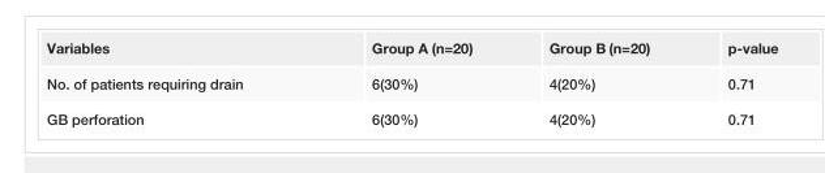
<table><tbody><tr><td>Variables</td><td>Group A (n=20)</td><td>Group B (n=20)</td><td>p-value</td></tr><tr><td>No. of patients requiring drain</td><td>6(30%)</td><td>4(20%)</td><td>0.71</td></tr><tr><td>GB perforation</td><td>6(30%)</td><td>4(20%)</td><td>0.71</td></tr></tbody></table>